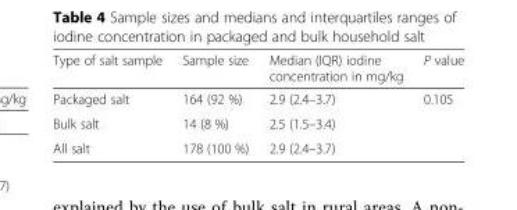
<table><thead><tr><td>Type of salt sample</td><td>Sample size</td><td>Median (IQR) iodine concentration in mg/kg</td><td>P value</td></tr></thead><tbody><tr><td>Packaged salt</td><td>164 (92 %)</td><td>2.9 (2.4–3.7)</td><td rowspan="2">0.105</td></tr><tr><td>Bulk salt</td><td>14 (8 %)</td><td>2.5 (1.5–3.4)</td></tr><tr><td>All salt</td><td>178 (100 %)</td><td>2.9 (2.4–3.7)</td><td></td></tr></tbody></table>